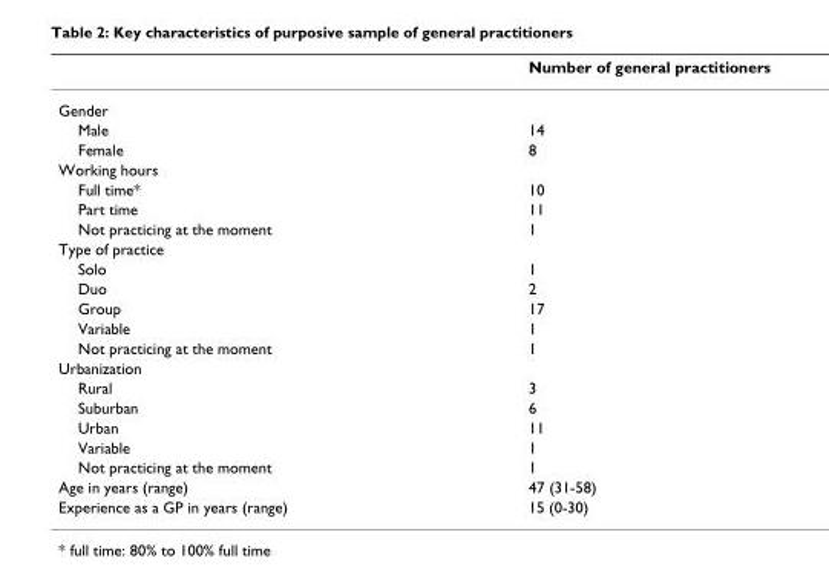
<table><thead><tr><td></td><td>Number of general practitioners</td></tr></thead><tbody><tr><td colspan="2">Gender</td></tr><tr><td>Male</td><td>14</td></tr><tr><td>Female</td><td>8</td></tr><tr><td colspan="2">Working hours</td></tr><tr><td>Full time*</td><td>10</td></tr><tr><td>Part time</td><td>11</td></tr><tr><td>Not practicing at the moment</td><td>1</td></tr><tr><td colspan="2">Type of practice</td></tr><tr><td>Solo</td><td>1</td></tr><tr><td>Duo</td><td>2</td></tr><tr><td>Group</td><td>17</td></tr><tr><td>Variable</td><td>1</td></tr><tr><td>Not practicing at the moment</td><td>1</td></tr><tr><td colspan="2">Urbanization</td></tr><tr><td>Rural</td><td>3</td></tr><tr><td>Suburban</td><td>6</td></tr><tr><td>Urban</td><td>11</td></tr><tr><td>Variable</td><td>1</td></tr><tr><td>Not practicing at the moment</td><td>1</td></tr><tr><td>Age in years (range)</td><td>47 (31-58)</td></tr><tr><td>Experience as a GP in years (range)</td><td>15 (0-30)</td></tr></tbody></table>